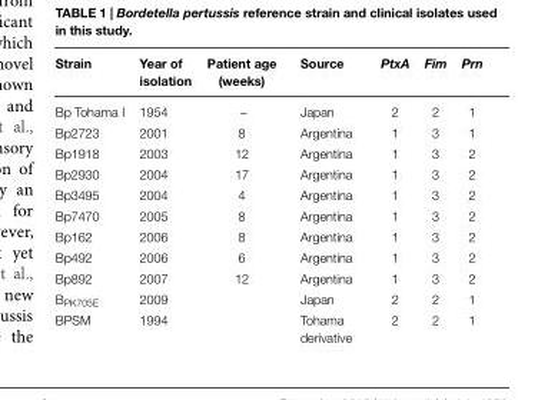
<table><thead><tr><td>Strain</td><td>Year of isolation</td><td>Patient age (weeks)</td><td>Source</td><td>PtxA</td><td>Fim</td><td>Prn</td></tr></thead><tbody><tr><td>Bp Tohama I</td><td>1954</td><td>–</td><td>Japan</td><td>2</td><td>2</td><td>1</td></tr><tr><td>Bp2723</td><td>2001</td><td>8</td><td>Argentina</td><td>1</td><td>3</td><td>1</td></tr><tr><td>Bp1918</td><td>2003</td><td>12</td><td>Argentina</td><td>1</td><td>3</td><td>2</td></tr><tr><td>Bp2930</td><td>2004</td><td>17</td><td>Argentina</td><td>1</td><td>3</td><td>2</td></tr><tr><td>Bp3495</td><td>2004</td><td>4</td><td>Argentina</td><td>1</td><td>3</td><td>2</td></tr><tr><td>Bp7470</td><td>2005</td><td>8</td><td>Argentina</td><td>1</td><td>3</td><td>2</td></tr><tr><td>Bp162</td><td>2006</td><td>8</td><td>Argentina</td><td>1</td><td>3</td><td>2</td></tr><tr><td>Bp492</td><td>2006</td><td>6</td><td>Argentina</td><td>1</td><td>3</td><td>2</td></tr><tr><td>Bp892</td><td>2007</td><td>12</td><td>Argentina</td><td>1</td><td>3</td><td>2</td></tr><tr><td>B<sub>PK705E</sub></td><td>2009</td><td></td><td>Japan</td><td>2</td><td>2</td><td>1</td></tr><tr><td>BPSM</td><td>1994</td><td></td><td>Tohama derivative</td><td>2</td><td>2</td><td>1</td></tr></tbody></table>